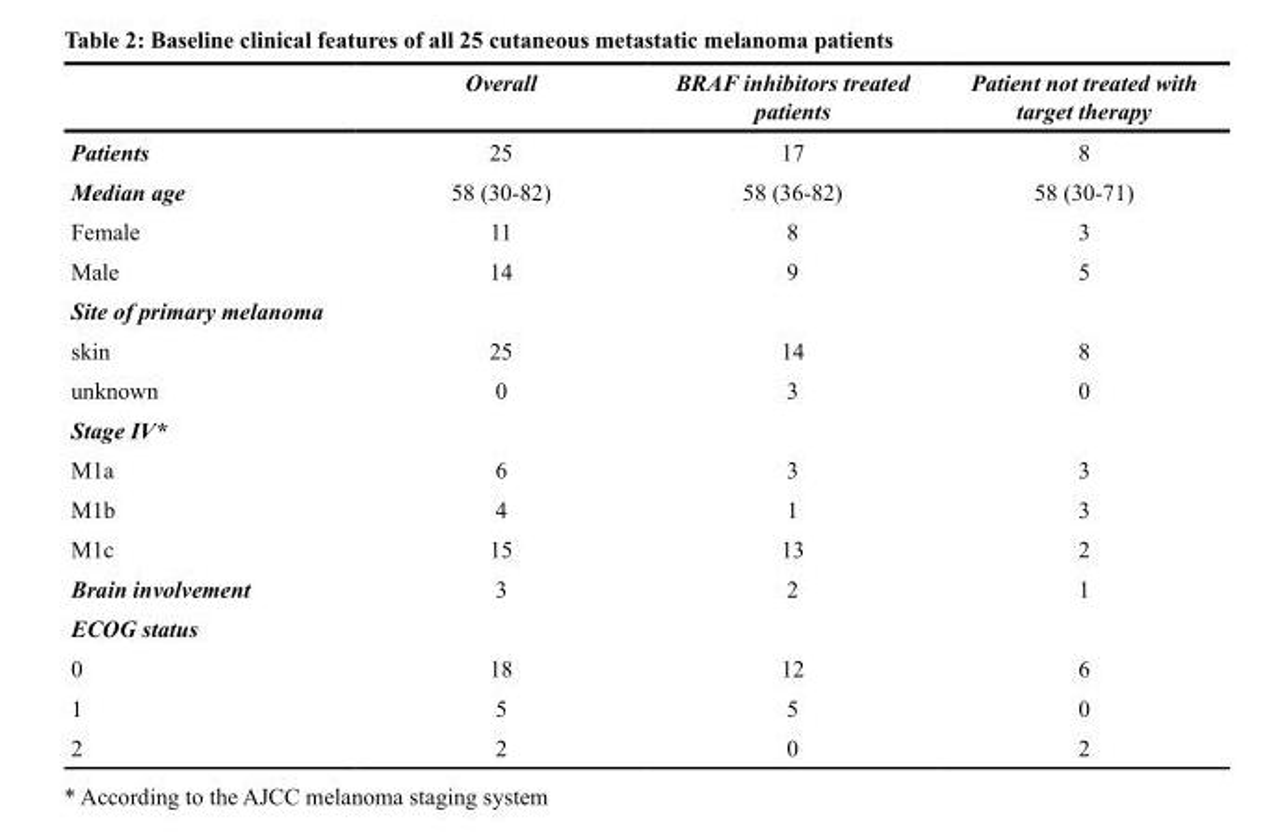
<table><thead><tr><td></td><td>Overall</td><td>BRAF inhibitors treated patients</td><td>Patient not treated with target therapy</td></tr></thead><tbody><tr><td>Patients</td><td>25</td><td>17</td><td>8</td></tr><tr><td>Median age</td><td>58 (30-82)</td><td>58 (36-82)</td><td>58 (30-71)</td></tr><tr><td>Female</td><td>11</td><td>8</td><td>3</td></tr><tr><td>Male</td><td>14</td><td>9</td><td>5</td></tr><tr><td colspan="4">Site of primary melanoma</td></tr><tr><td>skin</td><td>25</td><td>14</td><td>8</td></tr><tr><td>unknown</td><td>0</td><td>3</td><td>0</td></tr><tr><td colspan="4">Stage IV*</td></tr><tr><td>M1a</td><td>6</td><td>3</td><td>3</td></tr><tr><td>M1b</td><td>4</td><td>1</td><td>3</td></tr><tr><td>M1c</td><td>15</td><td>13</td><td>2</td></tr><tr><td>Brain involvement</td><td>3</td><td>2</td><td>1</td></tr><tr><td colspan="4">ECOG status</td></tr><tr><td>0</td><td>18</td><td>12</td><td>6</td></tr><tr><td>1</td><td>5</td><td>5</td><td>0</td></tr><tr><td>2</td><td>2</td><td>0</td><td>2</td></tr></tbody></table>